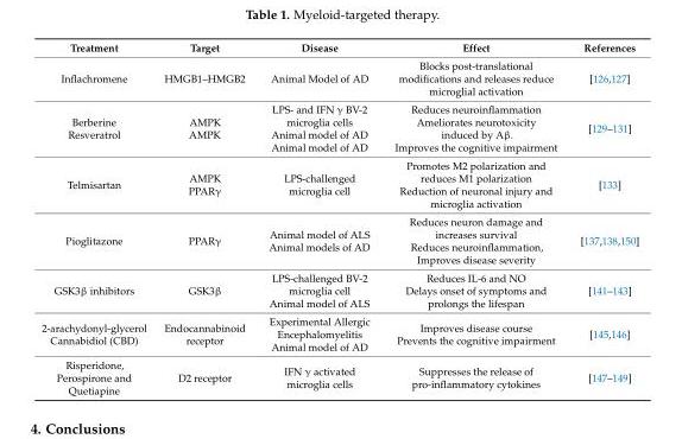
<table><thead><tr><td>Treatment</td><td>Target</td><td>Disease</td><td>Effect</td><td>References</td></tr></thead><tbody><tr><td>Inflachromene</td><td>HMGB1–HMGB2</td><td>Animal Model of AD</td><td>Blocks post-translational modifications and releases reduce microglial activation</td><td>[126,127]</td></tr><tr><td>Berberine Resveratrol</td><td>AMPK AMPK</td><td>LPS- and IFN γ BV-2 microglia cells Animal model of AD Animal model of AD</td><td>Reduces neuroinflammation Ameliorates neurotoxicity induced by Aβ. Improves the cognitive impairment</td><td>[129–131]</td></tr><tr><td>Telmisartan</td><td>AMPK PPARγ</td><td>LPS-challenged microglia cell</td><td>Promotes M2 polarization and reduces M1 polarization Reduction of neuronal injury and microglia activation</td><td>[133]</td></tr><tr><td>Pioglitazone</td><td>PPARγ</td><td>Animal model of ALS Animal models of AD</td><td>Reduces neuron damage and increases survival Reduces neuroinflammation, Improves disease severity</td><td>[137,138,150]</td></tr><tr><td>GSK3β inhibitors</td><td>GSK3β</td><td>LPS-challenged BV-2 microglia cell Animal model of ALS</td><td>Reduces IL-6 and NO Delays onset of symptoms and prolongs the lifespan</td><td>[141–143]</td></tr><tr><td>2-arachydonyl-glycerol Cannabidiol (CBD)</td><td>Endocannabinoid receptor</td><td>Experimental Allergic Encephalomyelitis Animal model of AD</td><td>Improves disease course Prevents the cognitive impairment</td><td>[145,146]</td></tr><tr><td>Risperidone, Perospirone and Quetiapine</td><td>D2 receptor</td><td>IFN γ activated microglia cells</td><td>Suppresses the release of pro-inflammatory cytokines</td><td>[147–149]</td></tr></tbody></table>